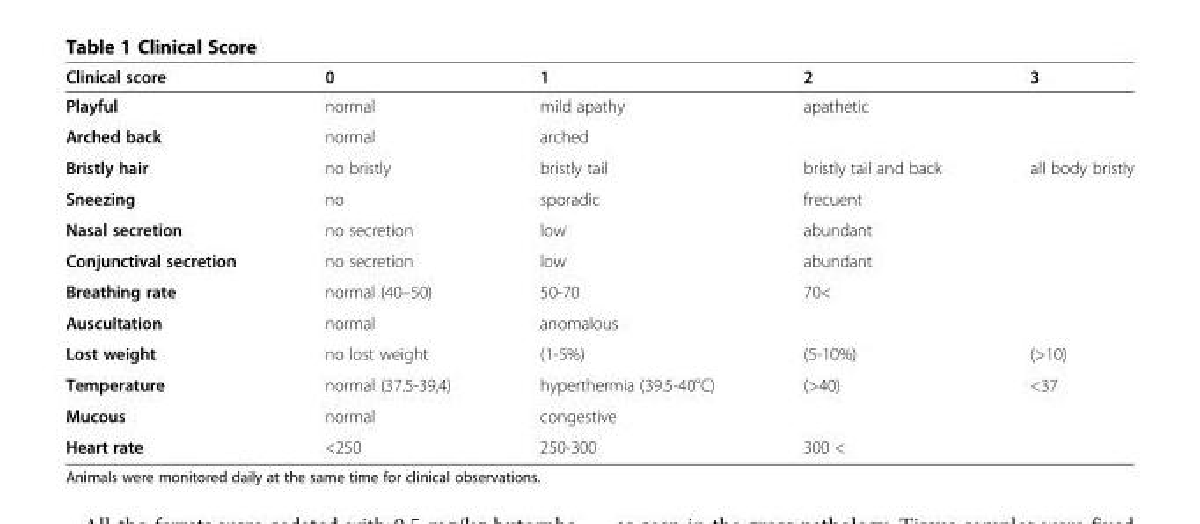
<table><thead><tr><td>Clinical score</td><td>0</td><td>1</td><td>2</td><td>3</td></tr></thead><tbody><tr><td>Playful</td><td>normal</td><td>mild apathy</td><td>apathetic</td><td></td></tr><tr><td>Arched back</td><td>normal</td><td>arched</td><td></td><td></td></tr><tr><td>Bristly hair</td><td>no bristly</td><td>bristly tail</td><td>bristly tail and back</td><td>all body bristly</td></tr><tr><td>Sneezing</td><td>no</td><td>sporadic</td><td>frecuent</td><td></td></tr><tr><td>Nasal secretion</td><td>no secretion</td><td>low</td><td>abundant</td><td></td></tr><tr><td>Conjunctival secretion</td><td>no secretion</td><td>low</td><td>abundant</td><td></td></tr><tr><td>Breathing rate</td><td>normal (40–50)</td><td>50-70</td><td>70&lt;</td><td></td></tr><tr><td>Auscultation</td><td>normal</td><td>anomalous</td><td></td><td></td></tr><tr><td>Lost weight</td><td>no lost weight</td><td>(1-5%)</td><td>(5-10%)</td><td>(&gt;10)</td></tr><tr><td>Temperature</td><td>normal (37.5-39,4)</td><td>hyperthermia (39.5-40°C)</td><td>(&gt;40)</td><td>&lt;37</td></tr><tr><td>Mucous</td><td>normal</td><td>congestive</td><td></td><td></td></tr><tr><td>Heart rate</td><td>&lt;250</td><td>250-300</td><td>300 &lt;</td><td></td></tr></tbody></table>